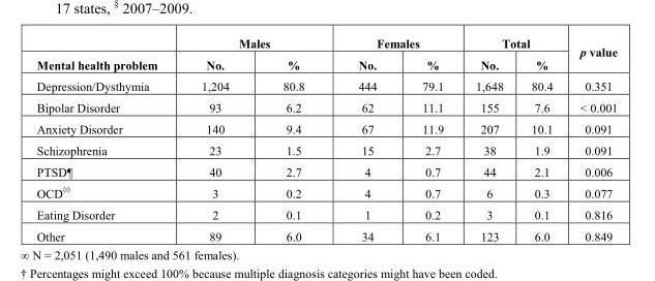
<table><thead><tr><td rowspan="2">Mental health problem</td><td colspan="2">Males</td><td colspan="2">Females</td><td colspan="2">Total</td><td rowspan="2">p value</td></tr><tr><td>No.</td><td>%</td><td>No.</td><td>%</td><td>No.</td><td>%</td></tr></thead><tbody><tr><td>Depression/Dysthymia</td><td>1,204</td><td>80.8</td><td>444</td><td>79.1</td><td>1,648</td><td>80.4</td><td>0.351</td></tr><tr><td>Bipolar Disorder</td><td>93</td><td>6.2</td><td>62</td><td>11.1</td><td>155</td><td>7.6</td><td>&lt; 0.001</td></tr><tr><td>Anxiety Disorder</td><td>140</td><td>9.4</td><td>67</td><td>11.9</td><td>207</td><td>10.1</td><td>0.091</td></tr><tr><td>Schizophrenia</td><td>23</td><td>1.5</td><td>15</td><td>2.7</td><td>38</td><td>1.9</td><td>0.091</td></tr><tr><td>PTSD¶</td><td>40</td><td>2.7</td><td>4</td><td>0.7</td><td>44</td><td>2.1</td><td>0.006</td></tr><tr><td>OCD<sup>◊◊</sup></td><td>3</td><td>0.2</td><td>4</td><td>0.7</td><td>6</td><td>0.3</td><td>0.077</td></tr><tr><td>Eating Disorder</td><td>2</td><td>0.1</td><td>1</td><td>0.2</td><td>3</td><td>0.1</td><td>0.816</td></tr><tr><td>Other</td><td>89</td><td>6.0</td><td>34</td><td>6.1</td><td>123</td><td>6.0</td><td>0.849</td></tr></tbody></table>